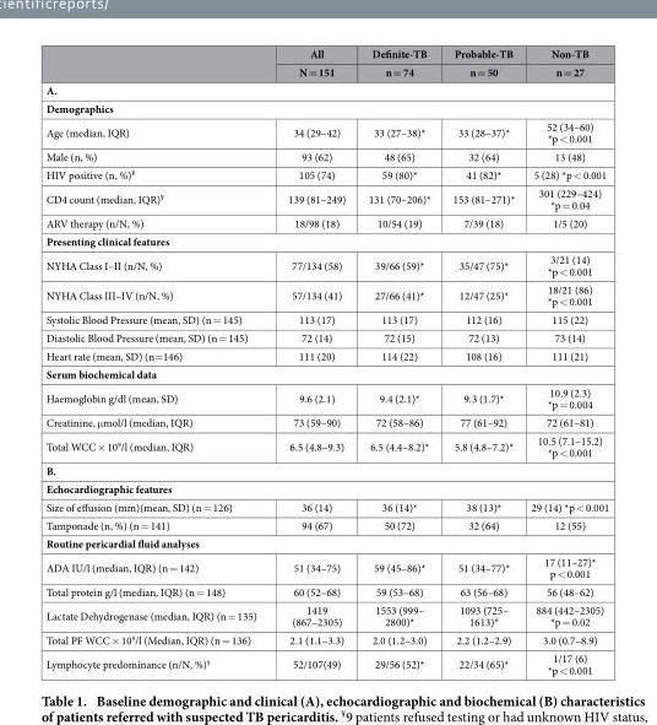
<table><thead><tr><td rowspan="2"></td><td rowspan="2">All N = 151</td><td rowspan="2">Definite-TB n = 74</td><td rowspan="2">Probable-TB n = 50</td><td rowspan="2">Non-TB n = 27</td></tr><tr></tr></thead><tbody><tr><td colspan="5">A.</td></tr><tr><td colspan="5">Demographics</td></tr><tr><td>Age (median, IQR)</td><td>34 (29–42)</td><td>33 (27–38)*</td><td>33 (28–37)*</td><td>52 (34–60) *p &lt; 0.001</td></tr><tr><td>Male (n, %)</td><td>93 (62)</td><td>48 (65)</td><td>32 (64)</td><td>13 (48)</td></tr><tr><td>HIV positive (n, %)¥</td><td>105 (74)</td><td>59 (80)*</td><td>41 (82)*</td><td>5 (28) *p &lt; 0.001</td></tr><tr><td>CD4 count (median, IQR)¥</td><td>139 (81–249)</td><td>131 (70–206)*</td><td>153 (81–271)*</td><td>301 (229–424) *p = 0.04</td></tr><tr><td>ARV therapy (n/N, %)</td><td>18/98 (18)</td><td>10/54 (19)</td><td>7/39 (18)</td><td>1/5 (20)</td></tr><tr><td colspan="5">Presenting clinical features</td></tr><tr><td>NYHA Class I–II (n/N, %)</td><td>77/134 (58)</td><td>39/66 (59)*</td><td>35/47 (75)*</td><td>3/21 (14) *p &lt; 0.001</td></tr><tr><td>NYHA Class III–IV (n/N, %)</td><td>57/134 (41)</td><td>27/66 (41)*</td><td>12/47 (25)*</td><td>18/21 (86) *p &lt; 0.001</td></tr><tr><td>Systolic Blood Pressure (mean, SD) (n = 145)</td><td>113 (17)</td><td>113 (17)</td><td>112 (16)</td><td>115 (22)</td></tr><tr><td>Diastolic Blood Pressure (mean, SD) (n = 145)</td><td>72 (14)</td><td>72 (15)</td><td>72 (13)</td><td>73 (14)</td></tr><tr><td>Heart rate (mean, SD) (n= 146)</td><td>111 (20)</td><td>114 (22)</td><td>108 (16)</td><td>111 (21)</td></tr><tr><td colspan="5">Serum biochemical data</td></tr><tr><td>Haemoglobin g/dl (mean, SD)</td><td>9.6 (2.1)</td><td>9.4 (2.1)*</td><td>9.3 (1.7)*</td><td>10.9 (2.3) *p = 0.004</td></tr><tr><td>Creatinine, μ mol/l (median, IQR)</td><td>73 (59–90)</td><td>72 (58–86)</td><td>77 (61–92)</td><td>72 (61–81)</td></tr><tr><td>Total WCC × 10<sup>9</sup>/l (median, IQR)</td><td>6.5 (4.8–9.3)</td><td>6.5 (4.4–8.2)*</td><td>5.8 (4.8–7.2)*</td><td>10.5 (7.1–15.2) *p &lt; 0.001</td></tr><tr><td colspan="5">B.</td></tr><tr><td colspan="5">Echocardiographic features</td></tr><tr><td>Size of effusion (mm)(mean, SD) (n = 126)</td><td>36 (14)</td><td>36 (14)*</td><td>38 (13)*</td><td>29 (14) *p &lt; 0.001</td></tr><tr><td>Tamponade (n, %) (n = 141)</td><td>94 (67)</td><td>50 (72)</td><td>32 (64)</td><td>12 (55)</td></tr><tr><td colspan="5">Routine pericardial fluid analyses</td></tr><tr><td>ADA IU/l (median, IQR) (n = 142)</td><td>51 (34–75)</td><td>59 (45–86)*</td><td>51 (34–77)*</td><td>17 (11–27)* p &lt; 0.001</td></tr><tr><td>Total protein g/l (median, IQR) (n = 148)</td><td>60 (52–68)</td><td>59 (53–68)</td><td>63 (56–68)</td><td>56 (48–62)</td></tr><tr><td>Lactate Dehydrogenase (median, IQR) (n = 135)</td><td>1419 (867–2305)</td><td>1553 (999– 2800)*</td><td>1093 (725– 1613)*</td><td>884 (442–2305) *p = 0.02</td></tr><tr><td>Total PF WCC × 10<sup>9</sup>/l (Median, IQR) (n = 136)</td><td>2.1 (1.1–3.3)</td><td>2.0 (1.2–3.0)</td><td>2.2 (1.2–2.9)</td><td>3.0 (0.7–8.9)</td></tr><tr><td>Lymphocyte predominance (n/N, %)§</td><td>52/107(49)</td><td>29/56 (52)*</td><td>22/34 (65)*</td><td>1/17 (6) *p &lt; 0.001</td></tr></tbody></table>